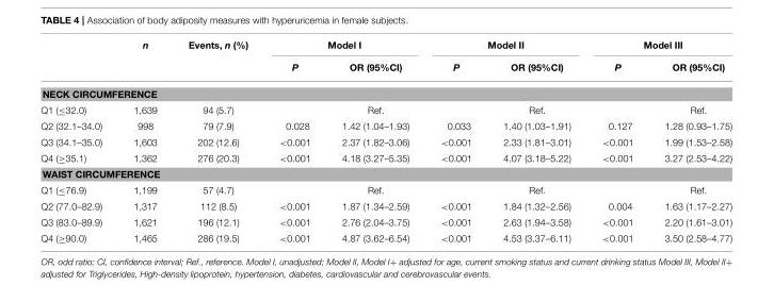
<table><thead><tr><td rowspan="2"></td><td rowspan="2">n</td><td rowspan="2">Events, n (%)</td><td colspan="2">Model I</td><td colspan="2">Model II</td><td colspan="2">Model III</td></tr><tr><td>P</td><td>OR (95%CI)</td><td>P</td><td>OR (95%CI)</td><td>P</td><td>OR (95%CI)</td></tr></thead><tbody><tr><td colspan="9">NECK CIRCUMFERENCE</td></tr><tr><td>Q1 (≤32.0)</td><td>1,639</td><td>94 (5.7)</td><td></td><td>Ref.</td><td></td><td>Ref.</td><td></td><td>Ref.</td></tr><tr><td>Q2 (32.1–34.0)</td><td>998</td><td>79 (7.9)</td><td>0.028</td><td>1.42 (1.04–1.93)</td><td>0.033</td><td>1.40 (1.03–1.91)</td><td>0.127</td><td>1.28 (0.93–1.75)</td></tr><tr><td>Q3 (34.1–35.0)</td><td>1,603</td><td>202 (12.6)</td><td>&lt;0.001</td><td>2.37 (1.82–3.06)</td><td>&lt;0.001</td><td>2.33 (1.81–3.01)</td><td>&lt;0.001</td><td>1.99 (1.53–2.58)</td></tr><tr><td>Q4 (≥35.1)</td><td>1,362</td><td>276 (20.3)</td><td>&lt;0.001</td><td>4.18 (3.27–5.35)</td><td>&lt;0.001</td><td>4.07 (3.18–5.22)</td><td>&lt;0.001</td><td>3.27 (2.53–4.22)</td></tr><tr><td colspan="9">WAIST CIRCUMFERENCE</td></tr><tr><td>Q1 (≤76.9)</td><td>1,199</td><td>57 (4.7)</td><td></td><td>Ref.</td><td></td><td>Ref.</td><td></td><td>Ref.</td></tr><tr><td>Q2 (77.0–82.9)</td><td>1,317</td><td>112 (8.5)</td><td>&lt;0.001</td><td>1.87 (1.34–2.59)</td><td>&lt;0.001</td><td>1.84 (1.32–2.56)</td><td>0.004</td><td>1.63 (1.17–2.27)</td></tr><tr><td>Q3 (83.0–89.9)</td><td>1,621</td><td>196 (12.1)</td><td>&lt;0.001</td><td>2.76 (2.04–3.75)</td><td>&lt;0.001</td><td>2.63 (1.94–3.58)</td><td>&lt;0.001</td><td>2.20 (1.61–3.01)</td></tr><tr><td>Q4 (≥90.0)</td><td>1,465</td><td>286 (19.5)</td><td>&lt;0.001</td><td>4.87 (3.62–6.54)</td><td>&lt;0.001</td><td>4.53 (3.37–6.11)</td><td>&lt;0.001</td><td>3.50 (2.58–4.77)</td></tr></tbody></table>